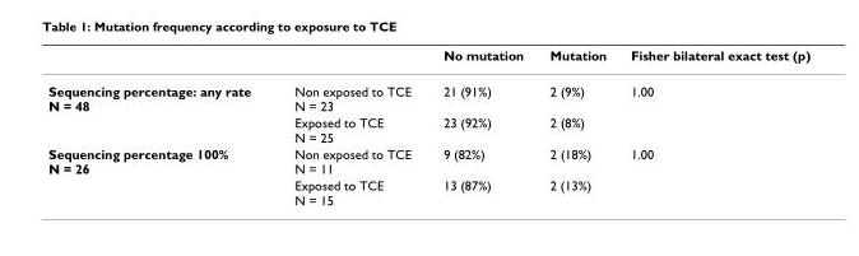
<table><thead><tr><td></td><td></td><td>No mutation</td><td>Mutation</td><td>Fisher bilateral exact test (p)</td></tr></thead><tbody><tr><td rowspan="2">Sequencing percentage: any rate N = 48</td><td>Non exposed to TCE N = 23</td><td>21 (91%)</td><td>2 (9%)</td><td>1.00</td></tr><tr><td>Exposed to TCE N = 25</td><td>23 (92%)</td><td>2 (8%)</td><td></td></tr><tr><td rowspan="2">Sequencing percentage 100% N = 26</td><td>Non exposed to TCE N = 11</td><td>9 (82%)</td><td>2 (18%)</td><td>1.00</td></tr><tr><td>Exposed to TCE N = 15</td><td>13 (87%)</td><td>2 (13%)</td><td></td></tr></tbody></table>